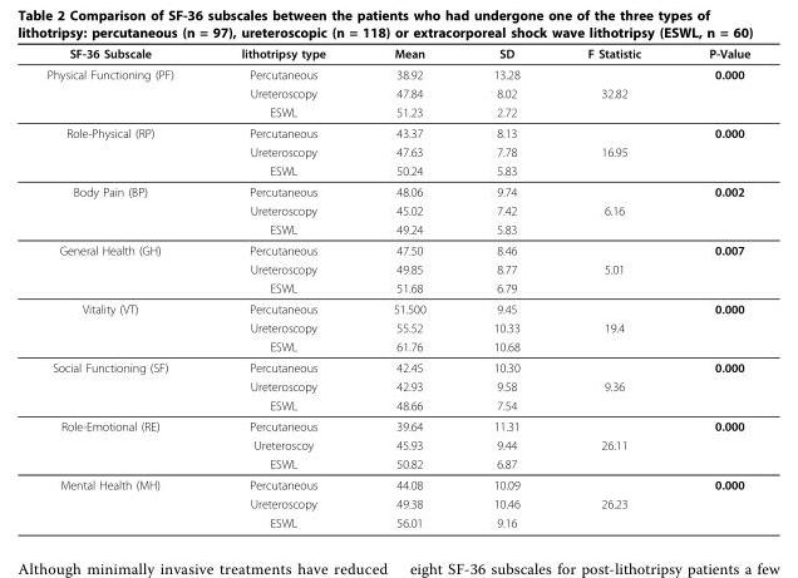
<table><thead><tr><td>SF-36 Subscale</td><td>lithotripsy type</td><td>Mean</td><td>SD</td><td>F Statistic</td><td>P-Value</td></tr></thead><tbody><tr><td rowspan="3">Physical Functioning (PF)</td><td>Percutaneous</td><td>38.92</td><td>13.28</td><td></td><td>0.000</td></tr><tr><td>Ureteroscopy</td><td>47.84</td><td>8.02</td><td>32.82</td><td></td></tr><tr><td>ESWL</td><td>51.23</td><td>2.72</td><td></td><td></td></tr><tr><td rowspan="3">Role-Physical (RP)</td><td>Percutaneous</td><td>43.37</td><td>8.13</td><td></td><td>0.000</td></tr><tr><td>Ureteroscopy</td><td>47.63</td><td>7.78</td><td>16.95</td><td></td></tr><tr><td>ESWL</td><td>50.24</td><td>5.83</td><td></td><td></td></tr><tr><td rowspan="3">Body Pain (BP)</td><td>Percutaneous</td><td>48.06</td><td>9.74</td><td></td><td>0.002</td></tr><tr><td>Ureteroscopy</td><td>45.02</td><td>7.42</td><td>6.16</td><td></td></tr><tr><td>ESWL</td><td>49.24</td><td>5.83</td><td></td><td></td></tr><tr><td rowspan="3">General Health (GH)</td><td>Percutaneous</td><td>47.50</td><td>8.46</td><td></td><td>0.007</td></tr><tr><td>Ureteroscopy</td><td>49.85</td><td>8.77</td><td>5.01</td><td></td></tr><tr><td>ESWL</td><td>51.68</td><td>6.79</td><td></td><td></td></tr><tr><td rowspan="3">Vitality (VT)</td><td>Percutaneous</td><td>51.500</td><td>9.45</td><td></td><td>0.000</td></tr><tr><td>Ureteroscopy</td><td>55.52</td><td>10.33</td><td>19.4</td><td></td></tr><tr><td>ESWL</td><td>61.76</td><td>10.68</td><td></td><td></td></tr><tr><td rowspan="3">Social Functioning (SF)</td><td>Percutaneous</td><td>42.45</td><td>10.30</td><td></td><td>0.000</td></tr><tr><td>Ureteroscopy</td><td>42.93</td><td>9.58</td><td>9.36</td><td></td></tr><tr><td>ESWL</td><td>48.66</td><td>7.54</td><td></td><td></td></tr><tr><td rowspan="3">Role-Emotional (RE)</td><td>Percutaneous</td><td>39.64</td><td>11.31</td><td></td><td>0.000</td></tr><tr><td>Ureteroscoy</td><td>45.93</td><td>9.44</td><td>26.11</td><td></td></tr><tr><td>ESWL</td><td>50.82</td><td>6.87</td><td></td><td></td></tr><tr><td rowspan="3">Mental Health (MH)</td><td>Percutaneous</td><td>44.08</td><td>10.09</td><td></td><td>0.000</td></tr><tr><td>Ureteroscopy</td><td>49.38</td><td>10.46</td><td>26.23</td><td></td></tr><tr><td>ESWL</td><td>56.01</td><td>9.16</td><td></td><td></td></tr></tbody></table>